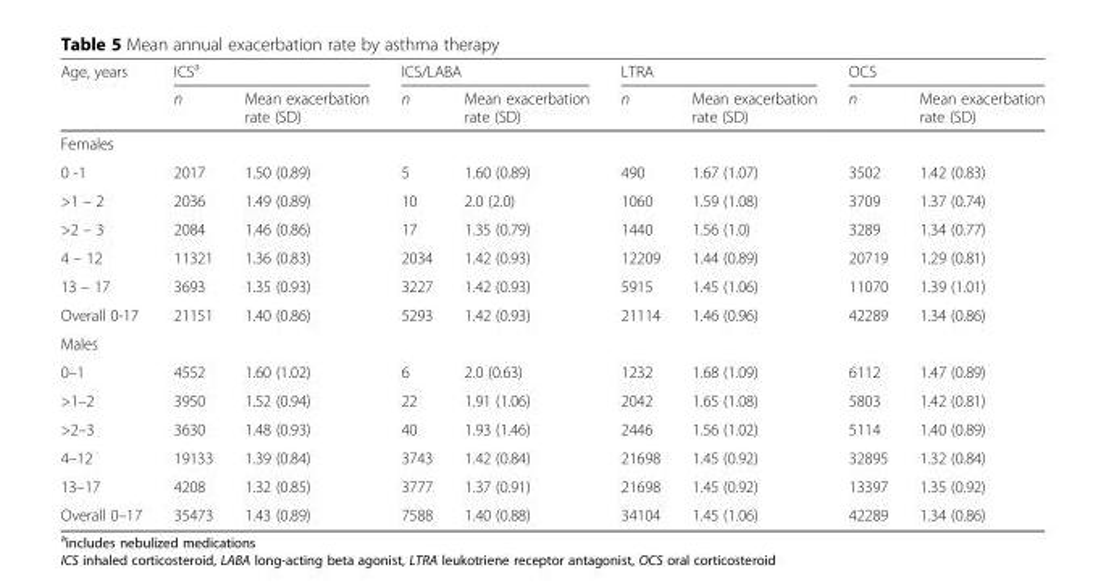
<table><thead><tr><td rowspan="2">Age, years</td><td colspan="2">ICS<sup>a</sup></td><td colspan="2">ICS/LABA</td><td colspan="2">LTRA</td><td colspan="2">OCS</td></tr><tr><td>n</td><td>Mean exacerbation rate (SD)</td><td>n</td><td>Mean exacerbation rate (SD)</td><td>n</td><td>Mean exacerbation rate (SD)</td><td>n</td><td>Mean exacerbation rate (SD)</td></tr></thead><tbody><tr><td colspan="9">Females</td></tr><tr><td>0 -1</td><td>2017</td><td>1.50 (0.89)</td><td>5</td><td>1.60 (0.89)</td><td>490</td><td>1.67 (1.07)</td><td>3502</td><td>1.42 (0.83)</td></tr><tr><td>&gt;1 – 2</td><td>2036</td><td>1.49 (0.89)</td><td>10</td><td>2.0 (2.0)</td><td>1060</td><td>1.59 (1.08)</td><td>3709</td><td>1.37 (0.74)</td></tr><tr><td>&gt;2 – 3</td><td>2084</td><td>1.46 (0.86)</td><td>17</td><td>1.35 (0.79)</td><td>1440</td><td>1.56 (1.0)</td><td>3289</td><td>1.34 (0.77)</td></tr><tr><td>4 – 12</td><td>11321</td><td>1.36 (0.83)</td><td>2034</td><td>1.42 (0.93)</td><td>12209</td><td>1.44 (0.89)</td><td>20719</td><td>1.29 (0.81)</td></tr><tr><td>13 – 17</td><td>3693</td><td>1.35 (0.93)</td><td>3227</td><td>1.42 (0.93)</td><td>5915</td><td>1.45 (1.06)</td><td>11070</td><td>1.39 (1.01)</td></tr><tr><td>Overall 0-17</td><td>21151</td><td>1.40 (0.86)</td><td>5293</td><td>1.42 (0.93)</td><td>21114</td><td>1.46 (0.96)</td><td>42289</td><td>1.34 (0.86)</td></tr><tr><td colspan="9">Males</td></tr><tr><td>0–1</td><td>4552</td><td>1.60 (1.02)</td><td>6</td><td>2.0 (0.63)</td><td>1232</td><td>1.68 (1.09)</td><td>6112</td><td>1.47 (0.89)</td></tr><tr><td>&gt;1–2</td><td>3950</td><td>1.52 (0.94)</td><td>22</td><td>1.91 (1.06)</td><td>2042</td><td>1.65 (1.08)</td><td>5803</td><td>1.42 (0.81)</td></tr><tr><td>&gt;2–3</td><td>3630</td><td>1.48 (0.93)</td><td>40</td><td>1.93 (1.46)</td><td>2446</td><td>1.56 (1.02)</td><td>5114</td><td>1.40 (0.89)</td></tr><tr><td>4–12</td><td>19133</td><td>1.39 (0.84)</td><td>3743</td><td>1.42 (0.84)</td><td>21698</td><td>1.45 (0.92)</td><td>32895</td><td>1.32 (0.84)</td></tr><tr><td>13–17</td><td>4208</td><td>1.32 (0.85)</td><td>3777</td><td>1.37 (0.91)</td><td>21698</td><td>1.45 (0.92)</td><td>13397</td><td>1.35 (0.92)</td></tr><tr><td>Overall 0–17</td><td>35473</td><td>1.43 (0.89)</td><td>7588</td><td>1.40 (0.88)</td><td>34104</td><td>1.45 (1.06)</td><td>42289</td><td>1.34 (0.86)</td></tr></tbody></table>